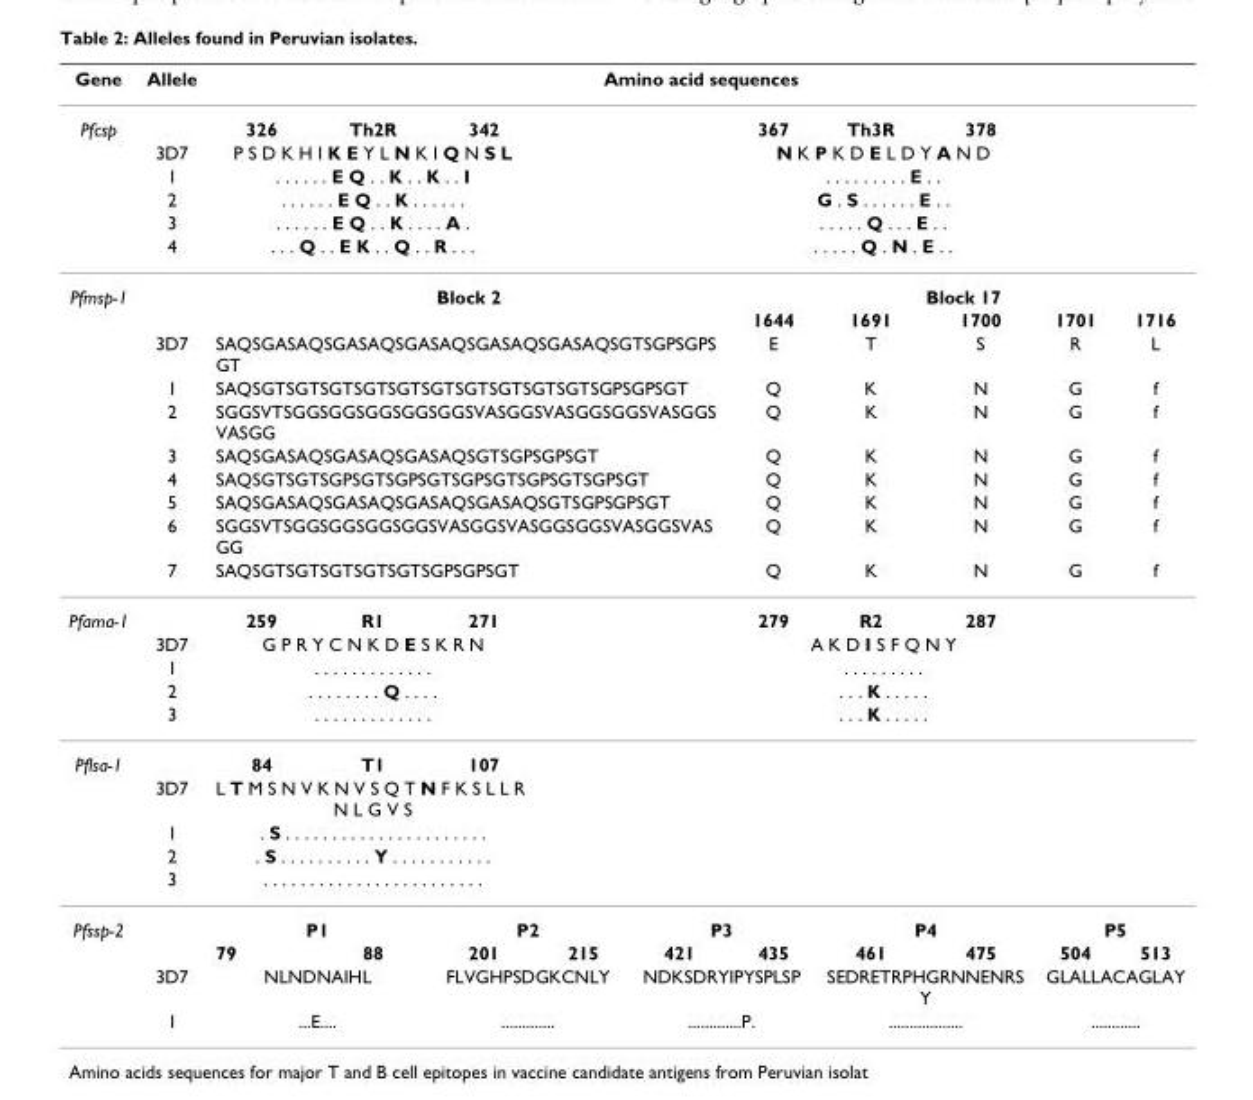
<table><thead><tr><td rowspan="2">Gene Pfcsp</td><td rowspan="2">Allele</td><td colspan="10">Amino acid sequences</td></tr><tr><td>326</td><td>Th2R</td><td>342</td><td></td><td></td><td>367</td><td>Th3R</td><td>378</td><td></td><td></td></tr></thead><tbody><tr><td></td><td>3D7</td><td colspan="3">P S D K H I K E Y L N K I Q N S L</td><td></td><td></td><td colspan="3">N K P K D E L D Y A N D</td><td></td><td></td></tr><tr><td></td><td>1</td><td colspan="3">. . . . . . E Q . . K . . K . . I</td><td></td><td></td><td colspan="3">. . . . . . . . . E . .</td><td></td><td></td></tr><tr><td></td><td>2</td><td colspan="3">. . . . . . E Q . . K . . . . . .</td><td></td><td></td><td colspan="3">G . S . . . . . . E . .</td><td></td><td></td></tr><tr><td></td><td>3</td><td colspan="3">. . . . . . E Q . . K . . . . A .</td><td></td><td></td><td colspan="3">. . . . . Q . . . E . .</td><td></td><td></td></tr><tr><td></td><td>4</td><td colspan="3">. . . Q . . E K . . Q . . R . . .</td><td></td><td></td><td colspan="3">. . . . . Q . N . E . .</td><td></td><td></td></tr><tr><td rowspan="10">Pfmsp-1</td><td></td><td colspan="5">Block 2</td><td colspan="5">Block 17</td></tr><tr><td></td><td></td><td></td><td></td><td></td><td></td><td>1644</td><td>1691</td><td>1700</td><td>1701</td><td>1716</td></tr><tr><td>3D7</td><td colspan="5">SAQSGASAQSGASAQSGASAQSGASAQSGASAQSGTSGPSGPS GT</td><td>E</td><td>T</td><td>S</td><td>R</td><td>L</td></tr><tr><td>1</td><td colspan="5">SAQSGTSGTSGTSGTSGTSGTSGTSGTSGTSGTSGPSGPSGT</td><td>Q</td><td>K</td><td>N</td><td>G</td><td>f</td></tr><tr><td>2</td><td colspan="5">SGGSVTSGGSGGSGGSGGSGGSVASGGSVASGGSGGSVASGGS VASGG</td><td>Q</td><td>K</td><td>N</td><td>G</td><td>f</td></tr><tr><td>3</td><td colspan="5">SAQSGASAQSGASAQSGASAQSGTSGPSGPSGT</td><td>Q</td><td>K</td><td>N</td><td>G</td><td>f</td></tr><tr><td>4</td><td colspan="5">SAQSGTSGTSGPSGTSGPSGTSGPSGTSGPSGTSGPSGT</td><td>Q</td><td>K</td><td>N</td><td>G</td><td>f</td></tr><tr><td>5</td><td colspan="5">SAQSGASAQSGASAQSGASAQSGASAQSGTSGPSGPSGT</td><td>Q</td><td>K</td><td>N</td><td>G</td><td>f</td></tr><tr><td>6</td><td colspan="5">SGGSVTSGGSGGSGGSGGSVASGGSVASGGSGGSVASGGSVAS GG</td><td>Q</td><td>K</td><td>N</td><td>G</td><td>f</td></tr><tr><td>7</td><td colspan="5">SAQSGTSGTSGTSGTSGTSGPSGPSGT</td><td>Q</td><td>K</td><td>N</td><td>G</td><td>f</td></tr><tr><td rowspan="5">Pfama-1</td><td></td><td>259</td><td>R1</td><td>271</td><td></td><td></td><td>279</td><td>R2</td><td>287</td><td></td><td></td></tr><tr><td>3D7</td><td colspan="3">G P R Y C N K D E S K R N</td><td></td><td></td><td colspan="3">A K D I S F Q N Y</td><td></td><td></td></tr><tr><td>1</td><td colspan="3">. . . . . . . . . . . . .</td><td></td><td></td><td colspan="3">. . . . . . . . .</td><td></td><td></td></tr><tr><td>2</td><td colspan="3">. . . . . . . . Q . . . .</td><td></td><td></td><td colspan="3">. . . K . . . . .</td><td></td><td></td></tr><tr><td>3</td><td colspan="3">. . . . . . . . . . . . .</td><td></td><td></td><td colspan="3">. . . K . . . . .</td><td></td><td></td></tr><tr><td rowspan="5">Pflsa-1</td><td></td><td>84</td><td>T1</td><td>107</td><td></td><td></td><td></td><td></td><td></td><td></td><td></td></tr><tr><td>3D7</td><td colspan="3">L T M S N V K N V S Q T N F K S L L R N L G V S</td><td></td><td></td><td></td><td></td><td></td><td></td><td></td></tr><tr><td>1</td><td colspan="3">. S . . . . . . . . . . . . . . . . . . . . . .</td><td></td><td></td><td></td><td></td><td></td><td></td><td></td></tr><tr><td>2</td><td colspan="3">. S . . . . . . . . . . Y . . . . . . . . . . .</td><td></td><td></td><td></td><td></td><td></td><td></td><td></td></tr><tr><td>3</td><td colspan="3">. . . . . . . . . . . . . . . . . . . . . . . .</td><td></td><td></td><td></td><td></td><td></td><td></td><td></td></tr><tr><td rowspan="4">Pfssp-2</td><td></td><td colspan="2">P1</td><td colspan="2">P2</td><td colspan="2">P3</td><td colspan="2">P4</td><td colspan="2">P5</td></tr><tr><td></td><td>79</td><td>88</td><td>201</td><td>215</td><td>421</td><td>435</td><td>461</td><td>475</td><td>504</td><td>513</td></tr><tr><td>3D7</td><td colspan="2">NLNDNAIHL</td><td colspan="2">FLVGHPSDGKCNLY</td><td colspan="2">NDKSDRYIPYSPLSP</td><td colspan="2">SEDRETRPHGRNNENRS Y</td><td colspan="2">GLALLACAGLAY</td></tr><tr><td>1</td><td colspan="2">...E....</td><td colspan="2">.............</td><td colspan="2">.............P.</td><td colspan="2">..................</td><td colspan="2">............</td></tr></tbody></table>